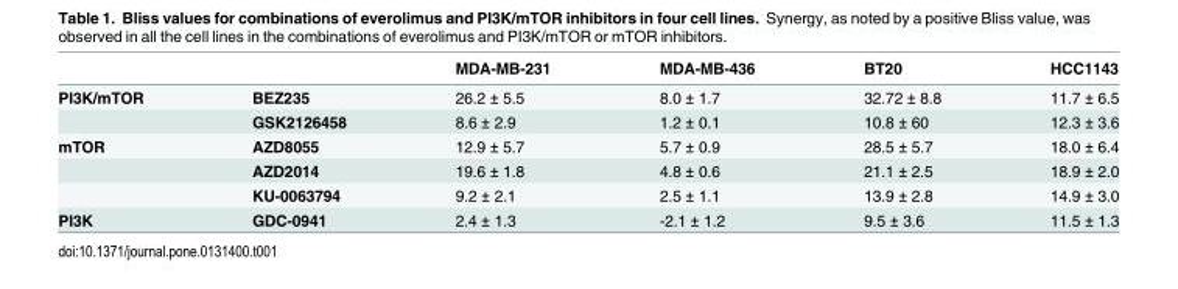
<table><thead><tr><td></td><td></td><td>MDA-MB-231</td><td>MDA-MB-436</td><td>BT20</td><td>HCC1143</td></tr></thead><tbody><tr><td rowspan="2">PI3K/mTOR</td><td>BEZ235</td><td>26.2 ± 5.5</td><td>8.0 ± 1.7</td><td>32.72 ± 8.8</td><td>11.7 ± 6.5</td></tr><tr><td>GSK2126458</td><td>8.6 ± 2.9</td><td>1.2 ± 0.1</td><td>10.8 ± 60</td><td>12.3 ± 3.6</td></tr><tr><td rowspan="3">mTOR</td><td>AZD8055</td><td>12.9 ± 5.7</td><td>5.7 ± 0.9</td><td>28.5 ± 5.7</td><td>18.0 ± 6.4</td></tr><tr><td>AZD2014</td><td>19.6 ± 1.8</td><td>4.8 ± 0.6</td><td>21.1 ± 2.5</td><td>18.9 ± 2.0</td></tr><tr><td>KU-0063794</td><td>9.2 ± 2.1</td><td>2.5 ± 1.1</td><td>13.9 ± 2.8</td><td>14.9 ± 3.0</td></tr><tr><td>PI3K</td><td>GDC-0941</td><td>2.4 ± 1.3</td><td>-2.1 ± 1.2</td><td>9.5 ± 3.6</td><td>11.5 ± 1.3</td></tr></tbody></table>